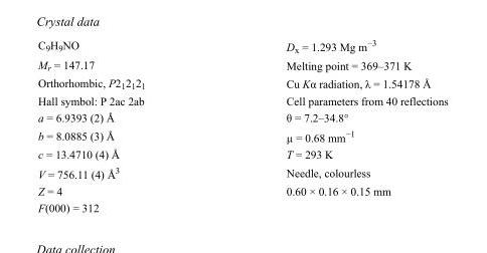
<table><tbody><tr><td>C<sub>9</sub>H<sub>9</sub>NO</td><td>D<sub>x</sub> = 1.293 Mg m<sup>−3</sup></td></tr><tr><td>M<sub>r</sub> = 147.17</td><td>Melting point = 369–371 K</td></tr><tr><td>Orthorhombic, P2<sub>1</sub>2<sub>1</sub>2<sub>1</sub></td><td>Cu Kα radiation, λ = 1.54178 Å</td></tr><tr><td>Hall symbol: P 2ac 2ab</td><td>Cell parameters from 40 reflections</td></tr><tr><td>a = 6.9393 (2) Å</td><td>θ = 7.2–34.8°</td></tr><tr><td>b = 8.0885 (3) Å</td><td>µ = 0.68 mm<sup>−1</sup></td></tr><tr><td>c = 13.4710 (4) Å</td><td>T = 293 K</td></tr><tr><td>V = 756.11 (4) Å<sup>3</sup></td><td>Needle, colourless</td></tr><tr><td>Z = 4</td><td>0.60 × 0.16 × 0.15 mm</td></tr><tr><td>F(000) = 312</td><td></td></tr></tbody></table>